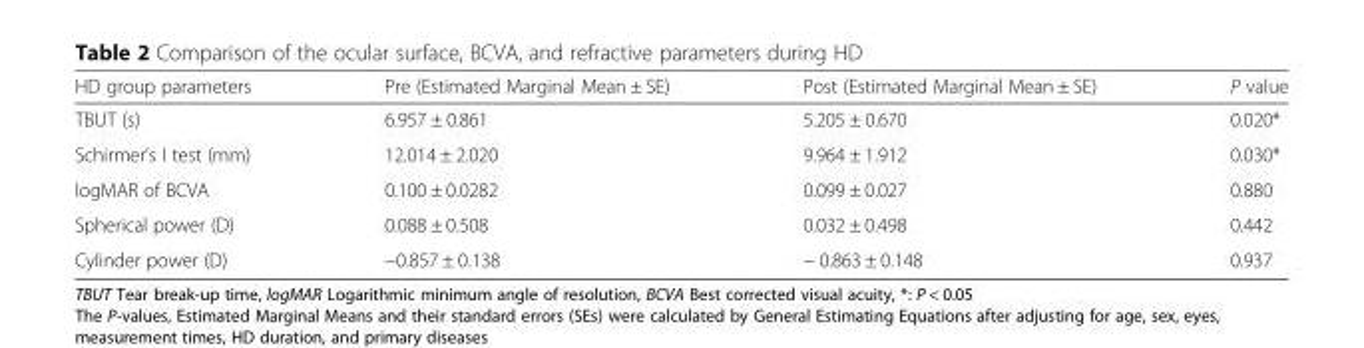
<table><thead><tr><td>HD group parameters</td><td>Pre (Estimated Marginal Mean ± SE)</td><td>Post (Estimated Marginal Mean ± SE)</td><td>P value</td></tr></thead><tbody><tr><td>TBUT (s)</td><td>6.957 ± 0.861</td><td>5.205 ± 0.670</td><td>0.020*</td></tr><tr><td>Schirmer’s I test (mm)</td><td>12.014 ± 2.020</td><td>9.964 ± 1.912</td><td>0.030*</td></tr><tr><td>logMAR of BCVA</td><td>0.100 ± 0.0282</td><td>0.099 ± 0.027</td><td>0.880</td></tr><tr><td>Spherical power (D)</td><td>0.088 ± 0.508</td><td>0.032 ± 0.498</td><td>0.442</td></tr><tr><td>Cylinder power (D)</td><td>−0.857 ± 0.138</td><td>− 0.863 ± 0.148</td><td>0.937</td></tr></tbody></table>